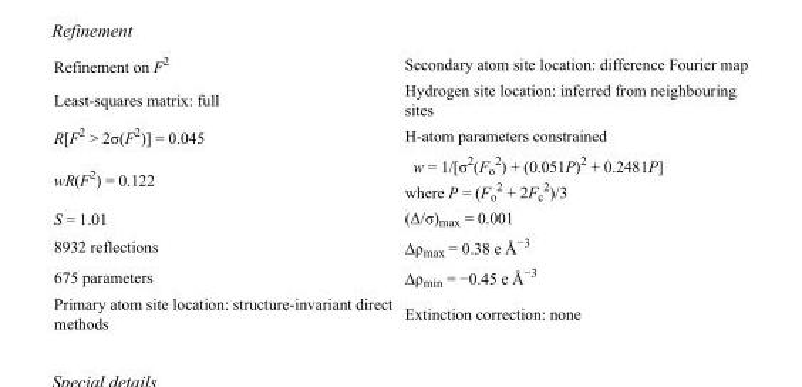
<table><tbody><tr><td>Refinement on F<sup>2</sup></td><td>Secondary atom site location: difference Fourier map</td></tr><tr><td>Least-squares matrix: full</td><td>Hydrogen site location: inferred from neighbouring sites</td></tr><tr><td>R[F<sup>2</sup> &gt; 2σ(F<sup>2</sup>)] = 0.045</td><td>H-atom parameters constrained</td></tr><tr><td>wR(F<sup>2</sup>) = 0.122</td><td>w = 1/[σ<sup>2</sup>(F<sub>o</sub> <sup>2</sup>) + (0.051P)<sup>2</sup> + 0.2481P] where P = (F<sub>o</sub> <sup>2</sup> + 2F<sub>c</sub> <sup>2</sup>)/3</td></tr><tr><td>S = 1.01</td><td>(Δ/σ)<sub>max</sub> = 0.001</td></tr><tr><td>8932 reflections</td><td>Δρ<sub>max</sub> = 0.38 e Å<sup>−3</sup></td></tr><tr><td>675 parameters</td><td>Δρ<sub>min</sub> = −0.45 e Å<sup>−3</sup></td></tr><tr><td>Primary atom site location: structure-invariant direct methods</td><td>Extinction correction: none</td></tr></tbody></table>